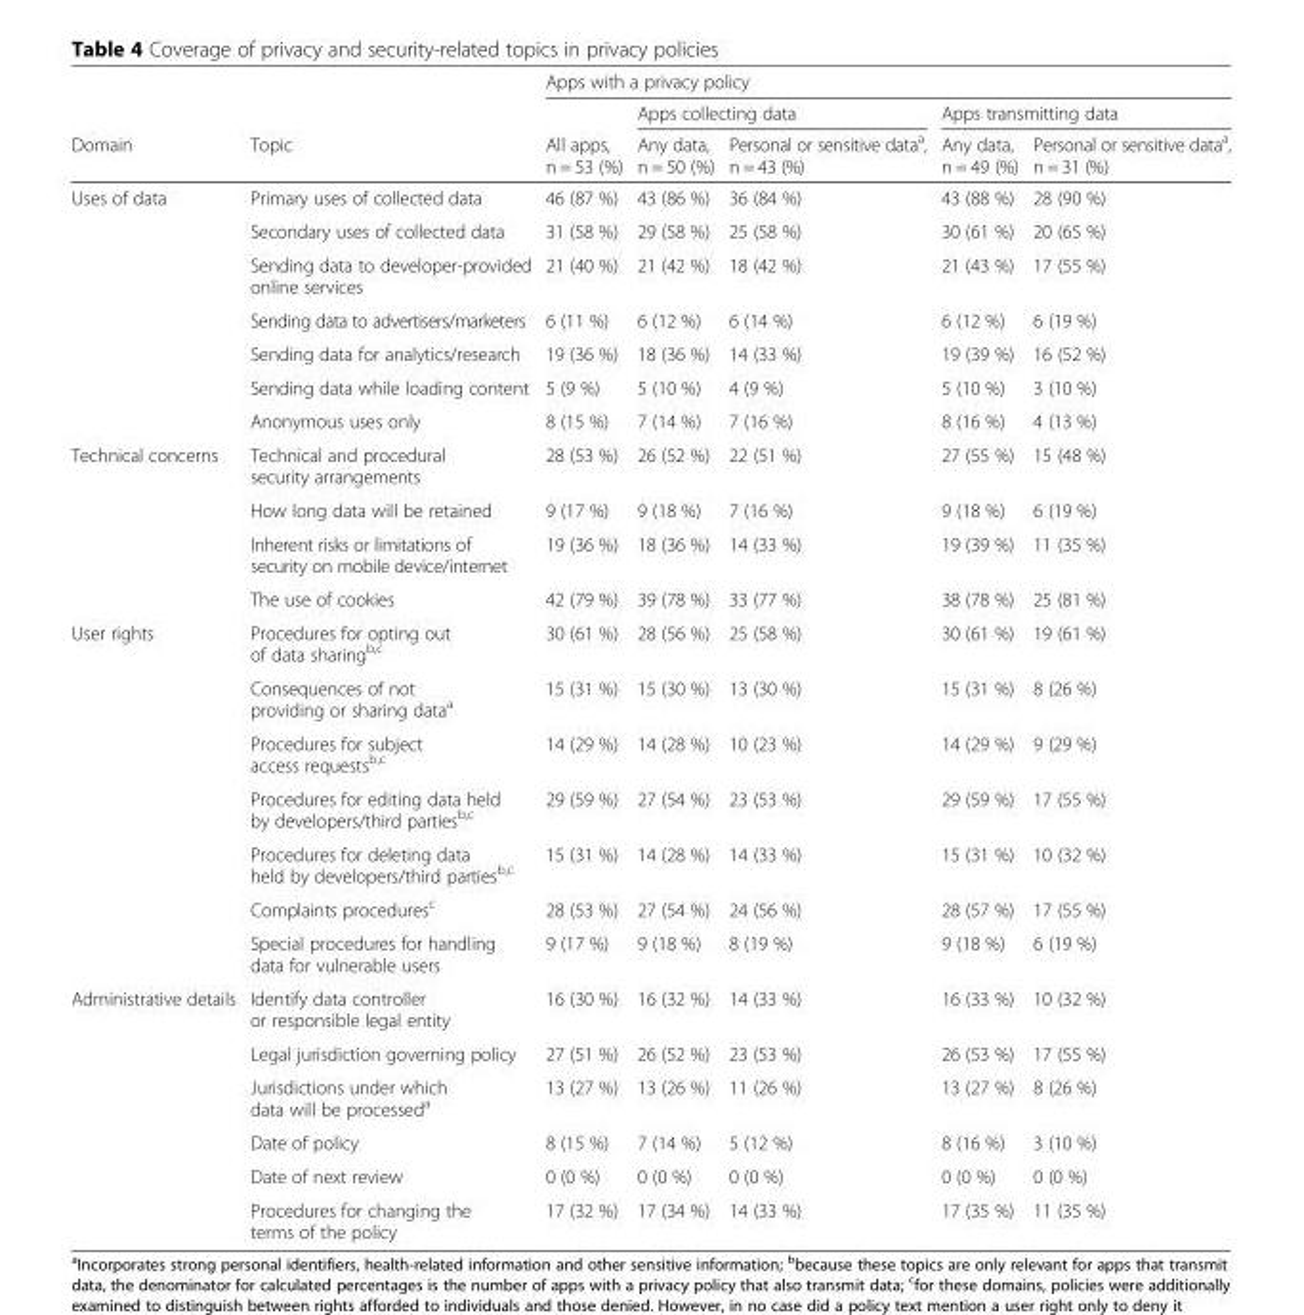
<table><thead><tr><td rowspan="3">Domain</td><td rowspan="3">Topic</td><td colspan="5">Apps with a privacy policy</td></tr><tr><td rowspan="2">All apps, n = 53 (%)</td><td colspan="2">Apps collecting data</td><td colspan="2">Apps transmitting data</td></tr><tr><td>Any data, n = 50 (%)</td><td>Personal or sensitive data<sup>a</sup>, n = 43 (%)</td><td>Any data, n = 49 (%)</td><td>Personal or sensitive data<sup>a</sup>, n = 31 (%)</td></tr></thead><tbody><tr><td rowspan="7">Uses of data</td><td>Primary uses of collected data</td><td>46 (87 %)</td><td>43 (86 %)</td><td>36 (84 %)</td><td>43 (88 %)</td><td>28 (90 %)</td></tr><tr><td>Secondary uses of collected data</td><td>31 (58 %)</td><td>29 (58 %)</td><td>25 (58 %)</td><td>30 (61 %)</td><td>20 (65 %)</td></tr><tr><td>Sending data to developer-provided online services</td><td>21 (40 %)</td><td>21 (42 %)</td><td>18 (42 %)</td><td>21 (43 %)</td><td>17 (55 %)</td></tr><tr><td>Sending data to advertisers/marketers</td><td>6 (11 %)</td><td>6 (12 %)</td><td>6 (14 %)</td><td>6 (12 %)</td><td>6 (19 %)</td></tr><tr><td>Sending data for analytics/research</td><td>19 (36 %)</td><td>18 (36 %)</td><td>14 (33 %)</td><td>19 (39 %)</td><td>16 (52 %)</td></tr><tr><td>Sending data while loading content</td><td>5 (9 %)</td><td>5 (10 %)</td><td>4 (9 %)</td><td>5 (10 %)</td><td>3 (10 %)</td></tr><tr><td>Anonymous uses only</td><td>8 (15 %)</td><td>7 (14 %)</td><td>7 (16 %)</td><td>8 (16 %)</td><td>4 (13 %)</td></tr><tr><td rowspan="4">Technical concerns</td><td>Technical and procedural security arrangements</td><td>28 (53 %)</td><td>26 (52 %)</td><td>22 (51 %)</td><td>27 (55 %)</td><td>15 (48 %)</td></tr><tr><td>How long data will be retained</td><td>9 (17 %)</td><td>9 (18 %)</td><td>7 (16 %)</td><td>9 (18 %)</td><td>6 (19 %)</td></tr><tr><td>Inherent risks or limitations of security on mobile device/internet</td><td>19 (36 %)</td><td>18 (36 %)</td><td>14 (33 %)</td><td>19 (39 %)</td><td>11 (35 %)</td></tr><tr><td>The use of cookies</td><td>42 (79 %)</td><td>39 (78 %)</td><td>33 (77 %)</td><td>38 (78 %)</td><td>25 (81 %)</td></tr><tr><td rowspan="7">User rights</td><td>Procedures for opting out of data sharing<sup>b,c</sup></td><td>30 (61 %)</td><td>28 (56 %)</td><td>25 (58 %)</td><td>30 (61 %)</td><td>19 (61 %)</td></tr><tr><td>Consequences of not providing or sharing data<sup>a</sup></td><td>15 (31 %)</td><td>15 (30 %)</td><td>13 (30 %)</td><td>15 (31 %)</td><td>8 (26 %)</td></tr><tr><td>Procedures for subject access requests<sup>b,c</sup></td><td>14 (29 %)</td><td>14 (28 %)</td><td>10 (23 %)</td><td>14 (29 %)</td><td>9 (29 %)</td></tr><tr><td>Procedures for editing data held by developers/third parties<sup>b,c</sup></td><td>29 (59 %)</td><td>27 (54 %)</td><td>23 (53 %)</td><td>29 (59 %)</td><td>17 (55 %)</td></tr><tr><td>Procedures for deleting data held by developers/third parties<sup>b,c</sup></td><td>15 (31 %)</td><td>14 (28 %)</td><td>14 (33 %)</td><td>15 (31 %)</td><td>10 (32 %)</td></tr><tr><td>Complaints procedures<sup>c</sup></td><td>28 (53 %)</td><td>27 (54 %)</td><td>24 (56 %)</td><td>28 (57 %)</td><td>17 (55 %)</td></tr><tr><td>Special procedures for handling data for vulnerable users</td><td>9 (17 %)</td><td>9 (18 %)</td><td>8 (19 %)</td><td>9 (18 %)</td><td>6 (19 %)</td></tr><tr><td rowspan="6">Administrative details</td><td>Identify data controller or responsible legal entity</td><td>16 (30 %)</td><td>16 (32 %)</td><td>14 (33 %)</td><td>16 (33 %)</td><td>10 (32 %)</td></tr><tr><td>Legal jurisdiction governing policy</td><td>27 (51 %)</td><td>26 (52 %)</td><td>23 (53 %)</td><td>26 (53 %)</td><td>17 (55 %)</td></tr><tr><td>Jurisdictions under which data will be processed<sup>a</sup></td><td>13 (27 %)</td><td>13 (26 %)</td><td>11 (26 %)</td><td>13 (27 %)</td><td>8 (26 %)</td></tr><tr><td>Date of policy</td><td>8 (15 %)</td><td>7 (14 %)</td><td>5 (12 %)</td><td>8 (16 %)</td><td>3 (10 %)</td></tr><tr><td>Date of next review</td><td>0 (0 %)</td><td>0 (0 %)</td><td>0 (0 %)</td><td>0 (0 %)</td><td>0 (0 %)</td></tr><tr><td>Procedures for changing the terms of the policy</td><td>17 (32 %)</td><td>17 (34 %)</td><td>14 (33 %)</td><td>17 (35 %)</td><td>11 (35 %)</td></tr></tbody></table>